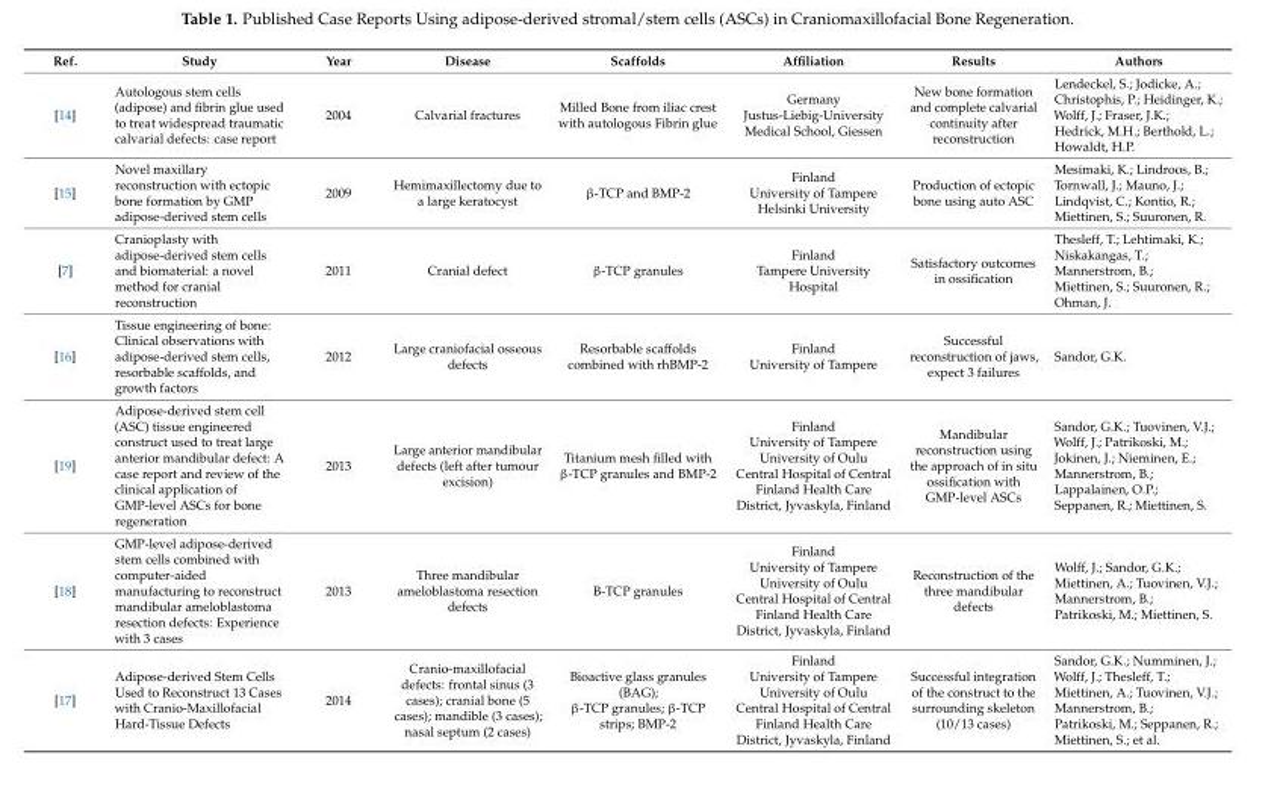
<table><thead><tr><td>Ref.</td><td>Study</td><td>Year</td><td>Disease</td><td>Scaffolds</td><td>Affiliation</td><td>Results</td><td>Authors</td></tr></thead><tbody><tr><td>[14]</td><td>Autologous stem cells (adipose) and fibrin glue used to treat widespread traumatic calvarial defects: case report</td><td>2004</td><td>Calvarial fractures</td><td>Milled Bone from iliac crest with autologous Fibrin glue</td><td>Germany Justus-Liebig-University Medical School, Giessen</td><td>New bone formation and complete calvarial continuity after reconstruction</td><td>Lendeckel, S.; Jodicke, A.; Christophis, P.; Heidinger, K.; Wolff, J.; Fraser, J.K.; Hedrick, M.H.; Berthold, L.; Howaldt, H.P.</td></tr><tr><td>[15]</td><td>Novel maxillary reconstruction with ectopic bone formation by GMP adipose-derived stem cells</td><td>2009</td><td>Hemimaxillectomy due to a large keratocyst</td><td>β-TCP and BMP-2</td><td>Finland University of Tampere Helsinki University</td><td>Production of ectopic bone using auto ASC</td><td>Mesimaki, K.; Lindroos, B.; Tornwall, J.; Mauno, J.; Lindqvist, C.; Kontio, R.; Miettinen, S.; Suuronen, R.</td></tr><tr><td>[7]</td><td>Cranioplasty with adipose-derived stem cells and biomaterial: a novel method for cranial reconstruction</td><td>2011</td><td>Cranial defect</td><td>β-TCP granules</td><td>Finland Tampere University Hospital</td><td>Satisfactory outcomes in ossification</td><td>Thesleff, T.; Lehtimaki, K.; Niskakangas, T.; Mannerstrom, B.; Miettinen, S.; Suuronen, R.; Ohman, J.</td></tr><tr><td>[16]</td><td>Tissue engineering of bone: Clinical observations with adipose-derived stem cells, resorbable scaffolds, and growth factors</td><td>2012</td><td>Large craniofacial osseous defects</td><td>Resorbable scaffolds combined with rhBMP-2</td><td>Finland University of Tampere</td><td>Successful reconstruction of jaws, expect 3 failures</td><td>Sandor, G.K.</td></tr><tr><td>[19]</td><td>Adipose-derived stem cell (ASC) tissue engineered construct used to treat large anterior mandibular defect: A case report and review of the clinical application of GMP-level ASCs for bone regeneration</td><td>2013</td><td>Large anterior mandibular defects (left after tumour excision)</td><td>Titanium mesh filled with β-TCP granules and BMP-2</td><td>Finland University of Tampere University of Oulu Central Hospital of Central Finland Health Care District, Jyvaskyla, Finland</td><td>Mandibular reconstruction using the approach of in situ ossification with GMP-level ASCs</td><td>Sandor, G.K.; Tuovinen, V.J.; Wolff, J.; Patrikoski, M.; Jokinen, J.; Nieminen, E.; Mannerstrom, B.; Lappalainen, O.P.; Seppanen, R.; Miettinen, S.</td></tr><tr><td>[18]</td><td>GMP-level adipose-derived stem cells combined with computer-aided manufacturing to reconstruct mandibular ameloblastoma resection defects: Experience with 3 cases</td><td>2013</td><td>Three mandibular ameloblastoma resection defects</td><td>B-TCP granules</td><td>Finland University of Tampere University of Oulu Central Hospital of Central Finland Health Care District, Jyvaskyla, Finland</td><td>Reconstruction of the three mandibular defects</td><td>Wolff, J.; Sandor, G.K.; Miettinen, A.; Tuovinen, V.J.; Mannerstrom, B.; Patrikoski, M.; Miettinen, S.</td></tr><tr><td>[17]</td><td>Adipose-derived Stem Cells Used to Reconstruct 13 Cases with Cranio-Maxillofacial Hard-Tissue Defects</td><td>2014</td><td>Cranio-maxillofacial defects: frontal sinus (3 cases); cranial bone (5 cases); mandible (3 cases); nasal septum (2 cases)</td><td>Bioactive glass granules (BAG); β-TCP granules; β-TCP strips; BMP-2</td><td>Finland University of Tampere University of Oulu Central Hospital of Central Finland Health Care District, Jyvaskyla, Finland</td><td>Successful integration of the construct to the surrounding skeleton (10/13 cases)</td><td>Sandor, G.K.; Numminen, J.; Wolff, J.; Thesleff, T.; Miettinen, A.; Tuovinen, V.J.; Mannerstrom, B.; Patrikoski, M.; Seppanen, R.; Miettinen, S.; et al.</td></tr></tbody></table>